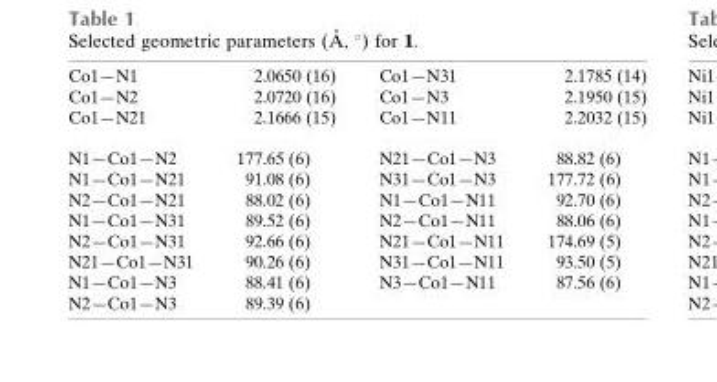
<table><tbody><tr><td>Co1—N1</td><td>2.0650 (16)</td><td>Co1—N31</td><td>2.1785 (14)</td></tr><tr><td>Co1—N2</td><td>2.0720 (16)</td><td>Co1—N3</td><td>2.1950 (15)</td></tr><tr><td>Co1—N21</td><td>2.1666 (15)</td><td>Co1—N11</td><td>2.2032 (15)</td></tr><tr><td>N1—Co1—N2</td><td>177.65 (6)</td><td>N21—Co1—N3</td><td>88.82 (6)</td></tr><tr><td>N1—Co1—N21</td><td>91.08 (6)</td><td>N31—Co1—N3</td><td>177.72 (6)</td></tr><tr><td>N2—Co1—N21</td><td>88.02 (6)</td><td>N1—Co1—N11</td><td>92.70 (6)</td></tr><tr><td>N1—Co1—N31</td><td>89.52 (6)</td><td>N2—Co1—N11</td><td>88.06 (6)</td></tr><tr><td>N2—Co1—N31</td><td>92.66 (6)</td><td>N21—Co1—N11</td><td>174.69 (5)</td></tr><tr><td>N21—Co1—N31</td><td>90.26 (6)</td><td>N31—Co1—N11</td><td>93.50 (5)</td></tr><tr><td>N1—Co1—N3</td><td>88.41 (6)</td><td>N3—Co1—N11</td><td>87.56 (6)</td></tr><tr><td>N2—Co1—N3</td><td>89.39 (6)</td><td></td><td></td></tr></tbody></table>